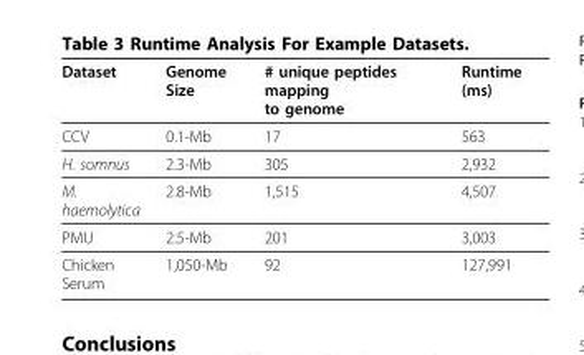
<table><thead><tr><td>Dataset</td><td>Genome Size</td><td># unique peptides mapping to genome</td><td>Runtime (ms)</td></tr></thead><tbody><tr><td>CCV</td><td>0.1-Mb</td><td>17</td><td>563</td></tr><tr><td>H. somnus</td><td>2.3-Mb</td><td>305</td><td>2,932</td></tr><tr><td>M. haemolytica</td><td>2.8-Mb</td><td>1,515</td><td>4,507</td></tr><tr><td>PMU</td><td>2.5-Mb</td><td>201</td><td>3,003</td></tr><tr><td>Chicken Serum</td><td>1,050-Mb</td><td>92</td><td>127,991</td></tr></tbody></table>